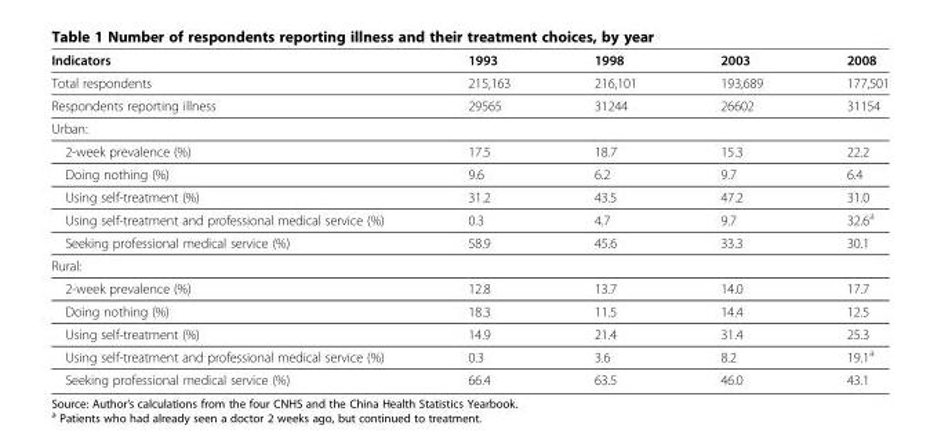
<table><thead><tr><td>Indicators</td><td>1993</td><td>1998</td><td>2003</td><td>2008</td></tr></thead><tbody><tr><td>Total respondents</td><td>215,163</td><td>216,101</td><td>193,689</td><td>177,501</td></tr><tr><td>Respondents reporting illness</td><td>29565</td><td>31244</td><td>26602</td><td>31154</td></tr><tr><td colspan="5">Urban:</td></tr><tr><td>2-week prevalence (%)</td><td>17.5</td><td>18.7</td><td>15.3</td><td>22.2</td></tr><tr><td>Doing nothing (%)</td><td>9.6</td><td>6.2</td><td>9.7</td><td>6.4</td></tr><tr><td>Using self-treatment (%)</td><td>31.2</td><td>43.5</td><td>47.2</td><td>31.0</td></tr><tr><td>Using self-treatment and professional medical service (%)</td><td>0.3</td><td>4.7</td><td>9.7</td><td>32.6<sup>a</sup></td></tr><tr><td>Seeking professional medical service (%)</td><td>58.9</td><td>45.6</td><td>33.3</td><td>30.1</td></tr><tr><td colspan="5">Rural:</td></tr><tr><td>2-week prevalence (%)</td><td>12.8</td><td>13.7</td><td>14.0</td><td>17.7</td></tr><tr><td>Doing nothing (%)</td><td>18.3</td><td>11.5</td><td>14.4</td><td>12.5</td></tr><tr><td>Using self-treatment (%)</td><td>14.9</td><td>21.4</td><td>31.4</td><td>25.3</td></tr><tr><td>Using self-treatment and professional medical service (%)</td><td>0.3</td><td>3.6</td><td>8.2</td><td>19.1<sup>a</sup></td></tr><tr><td>Seeking professional medical service (%)</td><td>66.4</td><td>63.5</td><td>46.0</td><td>43.1</td></tr></tbody></table>